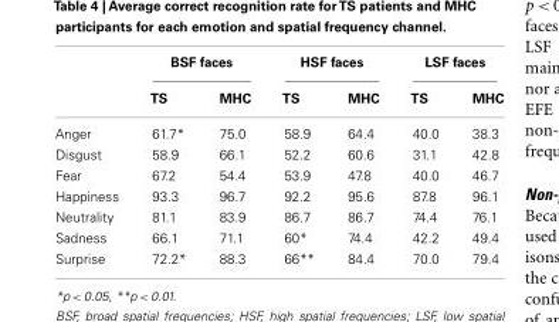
<table><thead><tr><td rowspan="2"></td><td colspan="2">BSF faces</td><td colspan="2">HSF faces</td><td colspan="2">LSF faces</td></tr><tr><td>TS</td><td>MHC</td><td>TS</td><td>MHC</td><td>TS</td><td>MHC</td></tr></thead><tbody><tr><td>Anger</td><td>61.7*</td><td>75.0</td><td>58.9</td><td>64.4</td><td>40.0</td><td>38.3</td></tr><tr><td>Disgust</td><td>58.9</td><td>66.1</td><td>52.2</td><td>60.6</td><td>31.1</td><td>42.8</td></tr><tr><td>Fear</td><td>67.2</td><td>54.4</td><td>53.9</td><td>47.8</td><td>40.0</td><td>46.7</td></tr><tr><td>Happiness</td><td>93.3</td><td>96.7</td><td>92.2</td><td>95.6</td><td>87.8</td><td>96.1</td></tr><tr><td>Neutrality</td><td>81.1</td><td>83.9</td><td>86.7</td><td>86.7</td><td>74.4</td><td>76.1</td></tr><tr><td>Sadness</td><td>66.1</td><td>71.1</td><td>60*</td><td>74.4</td><td>42.2</td><td>49.4</td></tr><tr><td>Surprise</td><td>72.2*</td><td>88.3</td><td>66**</td><td>84.4</td><td>70.0</td><td>79.4</td></tr></tbody></table>